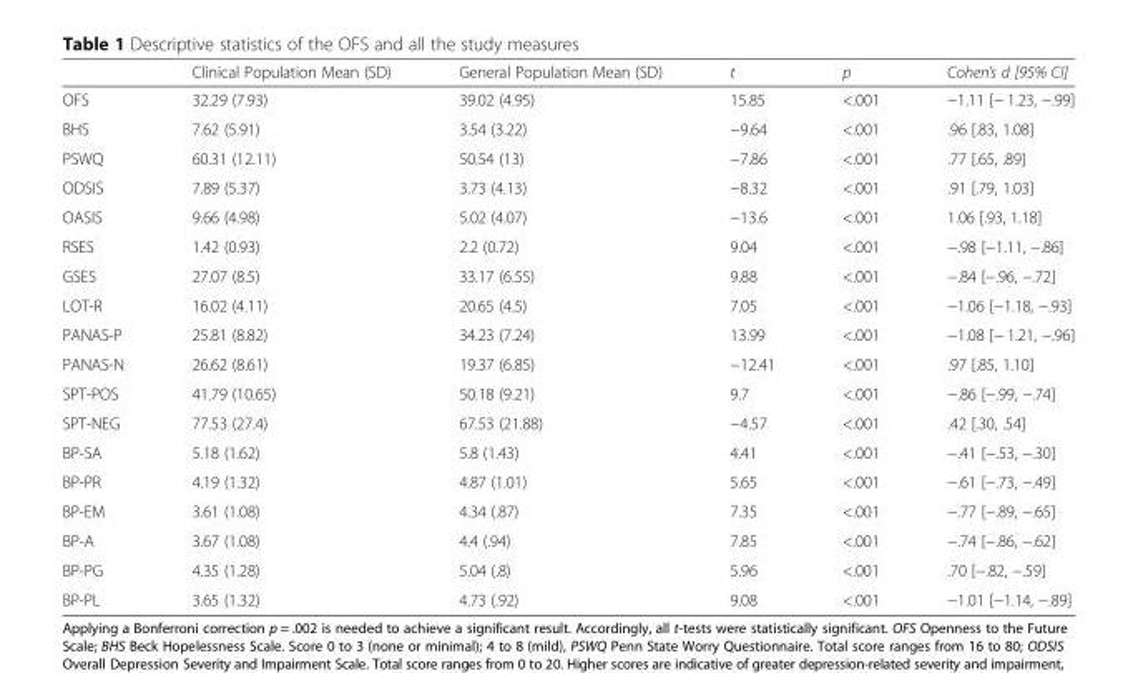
<table><thead><tr><td></td><td>Clinical Population Mean (SD)</td><td>General Population Mean (SD)</td><td>t</td><td>p</td><td>Cohen’s d [95% CI]</td></tr></thead><tbody><tr><td>OFS</td><td>32.29 (7.93)</td><td>39.02 (4.95)</td><td>15.85</td><td>&lt;.001</td><td>−1.11 [− 1.23, −.99]</td></tr><tr><td>BHS</td><td>7.62 (5.91)</td><td>3.54 (3.22)</td><td>−9.64</td><td>&lt;.001</td><td>.96 [.83, 1.08]</td></tr><tr><td>PSWQ</td><td>60.31 (12.11)</td><td>50.54 (13)</td><td>−7.86</td><td>&lt;.001</td><td>.77 [.65, .89]</td></tr><tr><td>ODSIS</td><td>7.89 (5.37)</td><td>3.73 (4.13)</td><td>−8.32</td><td>&lt;.001</td><td>.91 [.79, 1.03]</td></tr><tr><td>OASIS</td><td>9.66 (4.98)</td><td>5.02 (4.07)</td><td>−13.6</td><td>&lt;.001</td><td>1.06 [.93, 1.18]</td></tr><tr><td>RSES</td><td>1.42 (0.93)</td><td>2.2 (0.72)</td><td>9.04</td><td>&lt;.001</td><td>−.98 [−1.11, −.86]</td></tr><tr><td>GSES</td><td>27.07 (8.5)</td><td>33.17 (6.55)</td><td>9.88</td><td>&lt;.001</td><td>−.84 [−.96, −.72]</td></tr><tr><td>LOT-R</td><td>16.02 (4.11)</td><td>20.65 (4.5)</td><td>7.05</td><td>&lt;.001</td><td>−1.06 [−1.18, −.93]</td></tr><tr><td>PANAS-P</td><td>25.81 (8.82)</td><td>34.23 (7.24)</td><td>13.99</td><td>&lt;.001</td><td>−1.08 [− 1.21, −.96]</td></tr><tr><td>PANAS-N</td><td>26.62 (8.61)</td><td>19.37 (6.85)</td><td>−12.41</td><td>&lt;.001</td><td>.97 [.85, 1.10]</td></tr><tr><td>SPT-POS</td><td>41.79 (10.65)</td><td>50.18 (9.21)</td><td>9.7</td><td>&lt;.001</td><td>−.86 [−.99, −.74]</td></tr><tr><td>SPT-NEG</td><td>77.53 (27.4)</td><td>67.53 (21.88)</td><td>−4.57</td><td>&lt;.001</td><td>.42 [.30, .54]</td></tr><tr><td>BP-SA</td><td>5.18 (1.62)</td><td>5.8 (1.43)</td><td>4.41</td><td>&lt;.001</td><td>−.41 [−.53, −.30]</td></tr><tr><td>BP-PR</td><td>4.19 (1.32)</td><td>4.87 (1.01)</td><td>5.65</td><td>&lt;.001</td><td>−.61 [−.73, −.49]</td></tr><tr><td>BP-EM</td><td>3.61 (1.08)</td><td>4.34 (.87)</td><td>7.35</td><td>&lt;.001</td><td>−.77 [−.89, −.65]</td></tr><tr><td>BP-A</td><td>3.67 (1.08)</td><td>4.4 (.94)</td><td>7.85</td><td>&lt;.001</td><td>−.74 [−.86, −.62]</td></tr><tr><td>BP-PG</td><td>4.35 (1.28)</td><td>5.04 (.8)</td><td>5.96</td><td>&lt;.001</td><td>.70 [−.82, −.59]</td></tr><tr><td>BP-PL</td><td>3.65 (1.32)</td><td>4.73 (.92)</td><td>9.08</td><td>&lt;.001</td><td>−1.01 [−1.14, −.89]</td></tr></tbody></table>